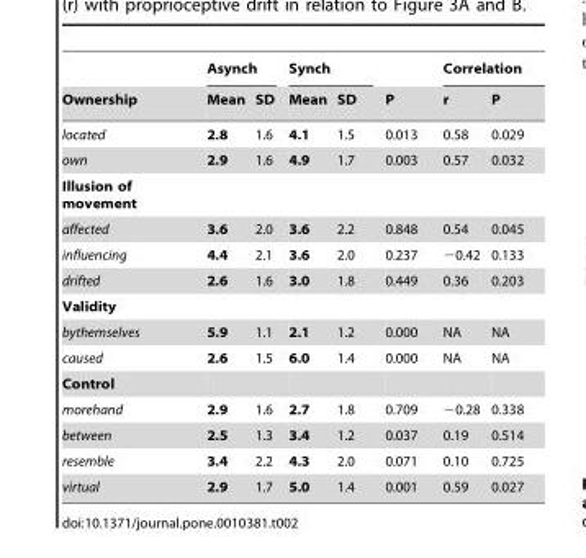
<table><thead><tr><td rowspan="2">Ownership</td><td colspan="2">Asynch</td><td colspan="2">Synch</td><td rowspan="2">P</td><td colspan="2">Correlation</td></tr><tr><td>Mean</td><td>SD</td><td>Mean</td><td>SD</td><td>r</td><td>P</td></tr></thead><tbody><tr><td>located</td><td>2.8</td><td>1.6</td><td>4.1</td><td>1.5</td><td>0.013</td><td>0.58</td><td>0.029</td></tr><tr><td>own</td><td>2.9</td><td>1.6</td><td>4.9</td><td>1.7</td><td>0.003</td><td>0.57</td><td>0.032</td></tr><tr><td colspan="8">Illusion of movement</td></tr><tr><td>affected</td><td>3.6</td><td>2.0</td><td>3.6</td><td>2.2</td><td>0.848</td><td>0.54</td><td>0.045</td></tr><tr><td>influencing</td><td>4.4</td><td>2.1</td><td>3.6</td><td>2.0</td><td>0.237</td><td>−0.42</td><td>0.133</td></tr><tr><td>drifted</td><td>2.6</td><td>1.6</td><td>3.0</td><td>1.8</td><td>0.449</td><td>0.36</td><td>0.203</td></tr><tr><td colspan="8">Validity</td></tr><tr><td>bythemselves</td><td>5.9</td><td>1.1</td><td>2.1</td><td>1.2</td><td>0.000</td><td>NA</td><td>NA</td></tr><tr><td>caused</td><td>2.6</td><td>1.5</td><td>6.0</td><td>1.4</td><td>0.000</td><td>NA</td><td>NA</td></tr><tr><td colspan="8">Control</td></tr><tr><td>morehand</td><td>2.9</td><td>1.6</td><td>2.7</td><td>1.8</td><td>0.709</td><td>−0.28</td><td>0.338</td></tr><tr><td>between</td><td>2.5</td><td>1.3</td><td>3.4</td><td>1.2</td><td>0.037</td><td>0.19</td><td>0.514</td></tr><tr><td>resemble</td><td>3.4</td><td>2.2</td><td>4.3</td><td>2.0</td><td>0.071</td><td>0.10</td><td>0.725</td></tr><tr><td>virtual</td><td>2.9</td><td>1.7</td><td>5.0</td><td>1.4</td><td>0.001</td><td>0.59</td><td>0.027</td></tr></tbody></table>